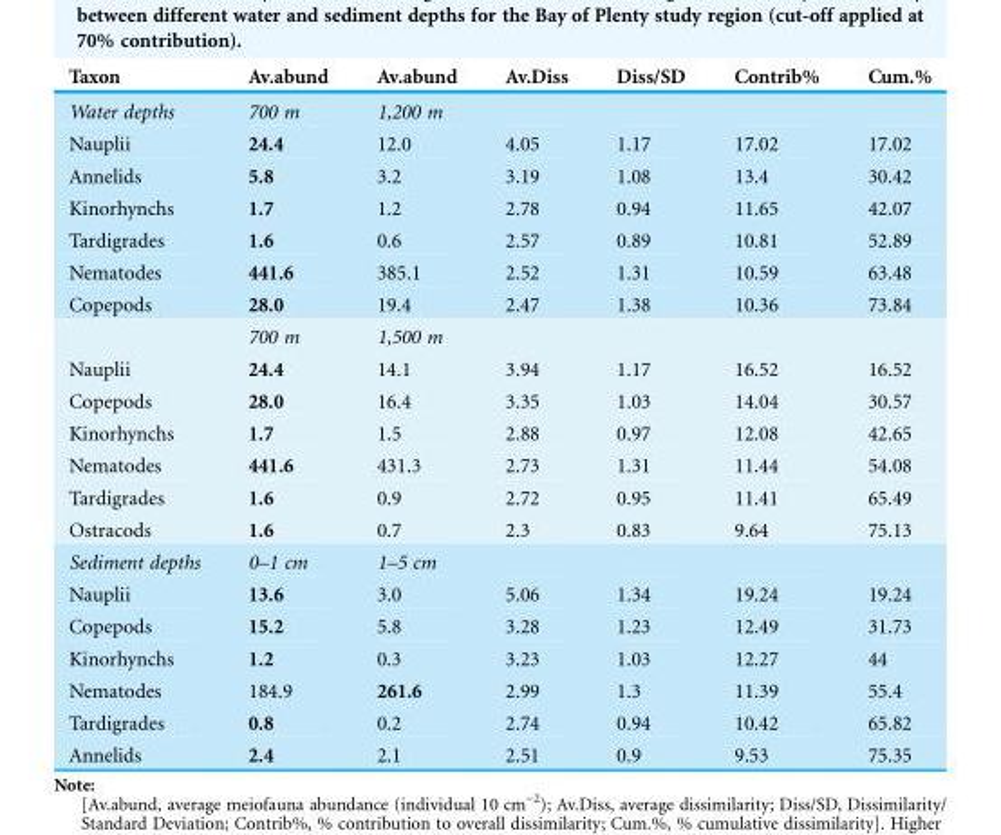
<table><thead><tr><td>Taxon</td><td>Av.abund</td><td>Av.abund</td><td>Av.Diss</td><td>Diss/SD</td><td>Contrib%</td><td>Cum.%</td></tr></thead><tbody><tr><td>Water depths</td><td>700 m</td><td>1,200 m</td><td></td><td></td><td></td><td></td></tr><tr><td>Nauplii</td><td>24.4</td><td>12.0</td><td>4.05</td><td>1.17</td><td>17.02</td><td>17.02</td></tr><tr><td>Annelids</td><td>5.8</td><td>3.2</td><td>3.19</td><td>1.08</td><td>13.4</td><td>30.42</td></tr><tr><td>Kinorhynchs</td><td>1.7</td><td>1.2</td><td>2.78</td><td>0.94</td><td>11.65</td><td>42.07</td></tr><tr><td>Tardigrades</td><td>1.6</td><td>0.6</td><td>2.57</td><td>0.89</td><td>10.81</td><td>52.89</td></tr><tr><td>Nematodes</td><td>441.6</td><td>385.1</td><td>2.52</td><td>1.31</td><td>10.59</td><td>63.48</td></tr><tr><td rowspan="2">Copepods</td><td>28.0</td><td>19.4</td><td>2.47</td><td>1.38</td><td>10.36</td><td>73.84</td></tr><tr><td>700 m</td><td>1,500 m</td><td></td><td></td><td></td><td></td></tr><tr><td>Nauplii</td><td>24.4</td><td>14.1</td><td>3.94</td><td>1.17</td><td>16.52</td><td>16.52</td></tr><tr><td>Copepods</td><td>28.0</td><td>16.4</td><td>3.35</td><td>1.03</td><td>14.04</td><td>30.57</td></tr><tr><td>Kinorhynchs</td><td>1.7</td><td>1.5</td><td>2.88</td><td>0.97</td><td>12.08</td><td>42.65</td></tr><tr><td>Nematodes</td><td>441.6</td><td>431.3</td><td>2.73</td><td>1.31</td><td>11.44</td><td>54.08</td></tr><tr><td>Tardigrades</td><td>1.6</td><td>0.9</td><td>2.72</td><td>0.95</td><td>11.41</td><td>65.49</td></tr><tr><td>Ostracods</td><td>1.6</td><td>0.7</td><td>2.3</td><td>0.83</td><td>9.64</td><td>75.13</td></tr><tr><td>Sediment depths</td><td>0–1 cm</td><td>1–5 cm</td><td></td><td></td><td></td><td></td></tr><tr><td>Nauplii</td><td>13.6</td><td>3.0</td><td>5.06</td><td>1.34</td><td>19.24</td><td>19.24</td></tr><tr><td>Copepods</td><td>15.2</td><td>5.8</td><td>3.28</td><td>1.23</td><td>12.49</td><td>31.73</td></tr><tr><td>Kinorhynchs</td><td>1.2</td><td>0.3</td><td>3.23</td><td>1.03</td><td>12.27</td><td>44</td></tr><tr><td>Nematodes</td><td>184.9</td><td>261.6</td><td>2.99</td><td>1.3</td><td>11.39</td><td>55.4</td></tr><tr><td>Tardigrades</td><td>0.8</td><td>0.2</td><td>2.74</td><td>0.94</td><td>10.42</td><td>65.82</td></tr><tr><td>Annelids</td><td>2.4</td><td>2.1</td><td>2.51</td><td>0.9</td><td>9.53</td><td>75.35</td></tr></tbody></table>